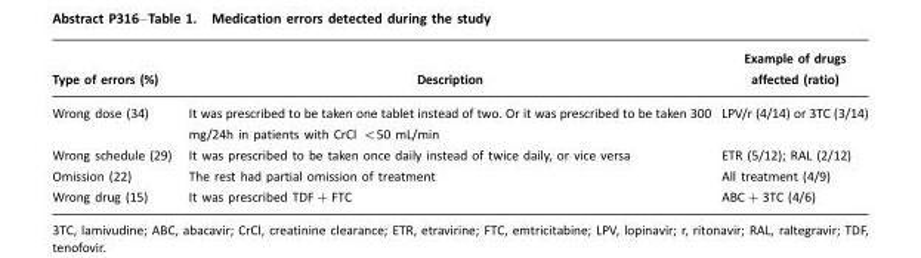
<table><thead><tr><td>Type of errors (%)</td><td>Description</td><td>Example of drugs affected (ratio)</td></tr></thead><tbody><tr><td>Wrong dose (34)</td><td>It was prescribed to be taken one tablet instead of two. Or it was prescribed to be taken 300 mg/24h in patients with CrCl &lt;50 mL/min</td><td>LPV/r (4/14) or 3TC (3/14)</td></tr><tr><td>Wrong schedule (29)</td><td>It was prescribed to be taken once daily instead of twice daily, or vice versa</td><td>ETR (5/12); RAL (2/12)</td></tr><tr><td>Omission (22)</td><td>The rest had partial omission of treatment</td><td>All treatment (4/9)</td></tr><tr><td>Wrong drug (15)</td><td>It was prescribed TDF+FTC</td><td>ABC+3TC (4/6)</td></tr></tbody></table>